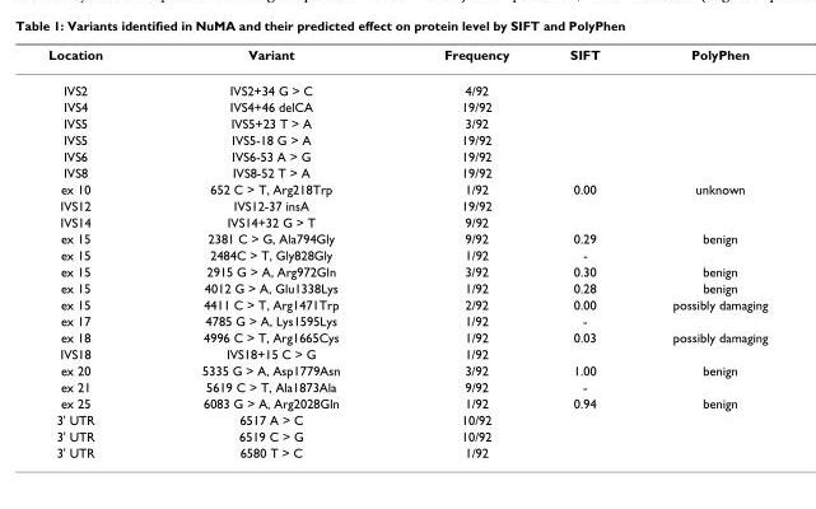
<table><thead><tr><td>Location</td><td>Variant</td><td>Frequency</td><td>SIFT</td><td>PolyPhen</td></tr></thead><tbody><tr><td>IVS2</td><td>IVS2+34 G &gt; C</td><td>4/92</td><td></td><td></td></tr><tr><td>IVS4</td><td>IVS4+46 delCA</td><td>19/92</td><td></td><td></td></tr><tr><td>IVS5</td><td>IVS5+23 T &gt; A</td><td>3/92</td><td></td><td></td></tr><tr><td>IVS5</td><td>IVS5-18 G &gt; A</td><td>19/92</td><td></td><td></td></tr><tr><td>IVS6</td><td>IVS6-53 A &gt; G</td><td>19/92</td><td></td><td></td></tr><tr><td>IVS8</td><td>IVS8-52 T &gt; A</td><td>19/92</td><td></td><td></td></tr><tr><td>ex 10</td><td>652 C &gt; T, Arg218Trp</td><td>1/92</td><td>0.00</td><td>unknown</td></tr><tr><td>IVS12</td><td>IVS12-37 insA</td><td>19/92</td><td></td><td></td></tr><tr><td>IVS14</td><td>IVS14+32 G &gt; T</td><td>9/92</td><td></td><td></td></tr><tr><td>ex 15</td><td>2381 C &gt; G, Ala794Gly</td><td>9/92</td><td>0.29</td><td>benign</td></tr><tr><td>ex 15</td><td>2484C &gt; T, Gly828Gly</td><td>1/92</td><td>-</td><td></td></tr><tr><td>ex 15</td><td>2915 G &gt; A, Arg972Gln</td><td>3/92</td><td>0.30</td><td>benign</td></tr><tr><td>ex 15</td><td>4012 G &gt; A, Glu1338Lys</td><td>1/92</td><td>0.28</td><td>benign</td></tr><tr><td>ex 15</td><td>4411 C &gt; T, Arg1471Trp</td><td>2/92</td><td>0.00</td><td>possibly damaging</td></tr><tr><td>ex 17</td><td>4785 G &gt; A, Lys1595Lys</td><td>1/92</td><td>-</td><td></td></tr><tr><td>ex 18</td><td>4996 C &gt; T, Arg1665Cys</td><td>1/92</td><td>0.03</td><td>possibly damaging</td></tr><tr><td>IVS18</td><td>IVS18+15 C &gt; G</td><td>1/92</td><td></td><td></td></tr><tr><td>ex 20</td><td>5335 G &gt; A, Asp1779Asn</td><td>3/92</td><td>1.00</td><td>benign</td></tr><tr><td>ex 21</td><td>5619 C &gt; T, Ala1873Ala</td><td>9/92</td><td>-</td><td></td></tr><tr><td>ex 25</td><td>6083 G &gt; A, Arg2028Gln</td><td>1/92</td><td>0.94</td><td>benign</td></tr><tr><td>3&#x27; UTR</td><td>6517 A &gt; C</td><td>10/92</td><td></td><td></td></tr><tr><td>3&#x27; UTR</td><td>6519 C &gt; G</td><td>10/92</td><td></td><td></td></tr><tr><td>3&#x27; UTR</td><td>6580 T &gt; C</td><td>1/92</td><td></td><td></td></tr></tbody></table>